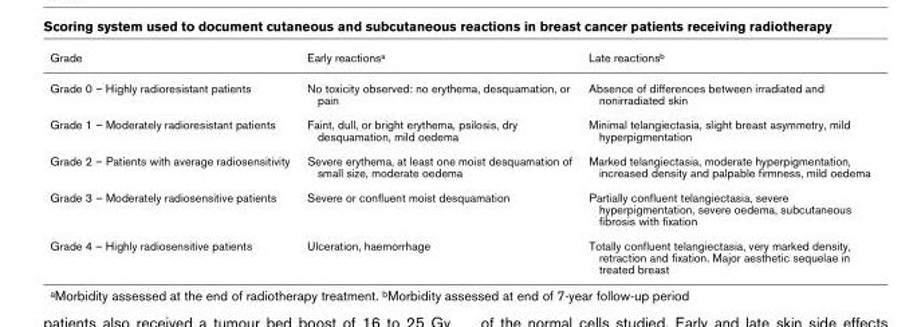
<table><thead><tr><td>Grade</td><td>Early reactionsa</td><td>Late reactionsb</td></tr></thead><tbody><tr><td>Grade 0 – Highly radioresistant patients</td><td>No toxicity observed: no erythema, desquamation, or pain</td><td>Absence of differences between irradiated and nonirradiated skin</td></tr><tr><td>Grade 1 – Moderately radioresistant patients</td><td>Faint, dull, or bright erythema, psilosis, dry desquamation, mild oedema</td><td>Minimal telangiectasia, slight breast asymmetry, mild hyperpigmentation</td></tr><tr><td>Grade 2 – Patients with average radiosensitivity</td><td>Severe erythema, at least one moist desquamation of small size, moderate oedema</td><td>Marked telangiectasia, moderate hyperpigmentation, increased density and palpable firmness, mild oedema</td></tr><tr><td>Grade 3 – Moderately radiosensitive patients</td><td>Severe or confluent moist desquamation</td><td>Partially confluent telangiectasia, severe hyperpigmentation, severe oedema, subcutaneous fibrosis with fixation</td></tr><tr><td>Grade 4 – Highly radiosensitive patients</td><td>Ulceration, haemorrhage</td><td>Totally confluent telangiectasia, very marked density, retraction and fixation. Major aesthetic sequelae in treated breast</td></tr></tbody></table>